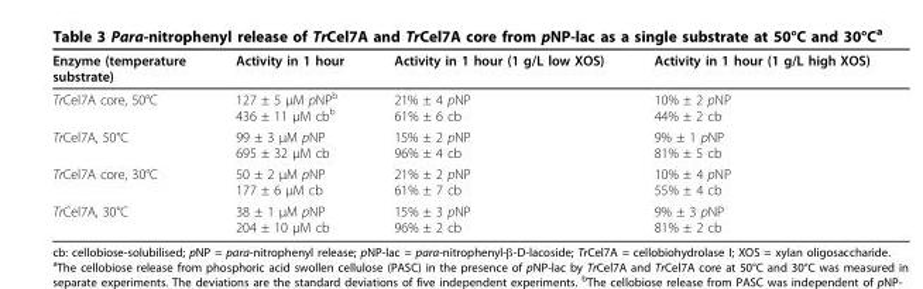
<table><thead><tr><td>Enzyme (temperature substrate)</td><td>Activity in 1 hour</td><td>Activity in 1 hour (1 g/L low XOS)</td><td>Activity in 1 hour (1 g/L high XOS)</td></tr></thead><tbody><tr><td>TrCel7A core, 50°C</td><td>127 ± 5 μM pNP<sup>b</sup> 436 ± 11 μM cb<sup>b</sup></td><td>21% ± 4 pNP 61% ± 6 cb</td><td>10% ± 2 pNP 44% ± 2 cb</td></tr><tr><td>TrCel7A, 50°C</td><td>99 ± 3 μM pNP 695 ± 32 μM cb</td><td>15% ± 2 pNP 96% ± 4 cb</td><td>9% ± 1 pNP 81% ± 5 cb</td></tr><tr><td>TrCel7A core, 30°C</td><td>50 ± 2 μM pNP 177 ± 6 μM cb</td><td>21% ± 2 pNP 61% ± 7 cb</td><td>10% ± 4 pNP 55% ± 4 cb</td></tr><tr><td>TrCel7A, 30°C</td><td>38 ± 1 μM pNP 204 ± 10 μM cb</td><td>15% ± 3 pNP 96% ± 2 cb</td><td>9% ± 3 pNP 81% ± 2 cb</td></tr></tbody></table>